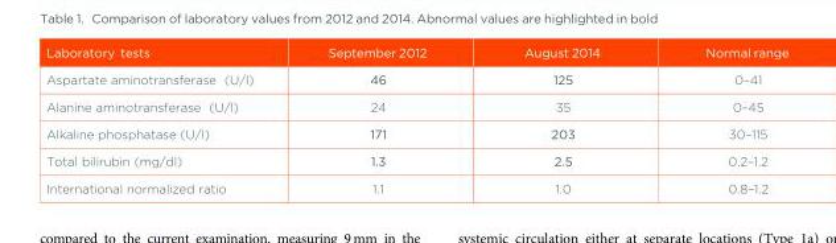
<table><thead><tr><td>Laboratory tests</td><td>September 2012</td><td>August 2014</td><td>Normal range</td></tr></thead><tbody><tr><td>Aspartate aminotransferase (U/l)</td><td>46</td><td>125</td><td>0–41</td></tr><tr><td>Alanine aminotransferase (U/l)</td><td>24</td><td>35</td><td>0–45</td></tr><tr><td>Alkaline phosphatase (U/l)</td><td>171</td><td>203</td><td>30–115</td></tr><tr><td>Total bilirubin (mg/dl)</td><td>1.3</td><td>2.5</td><td>0.2–1.2</td></tr><tr><td>International normalized ratio</td><td>1.1</td><td>1.0</td><td>0.8–1.2</td></tr></tbody></table>